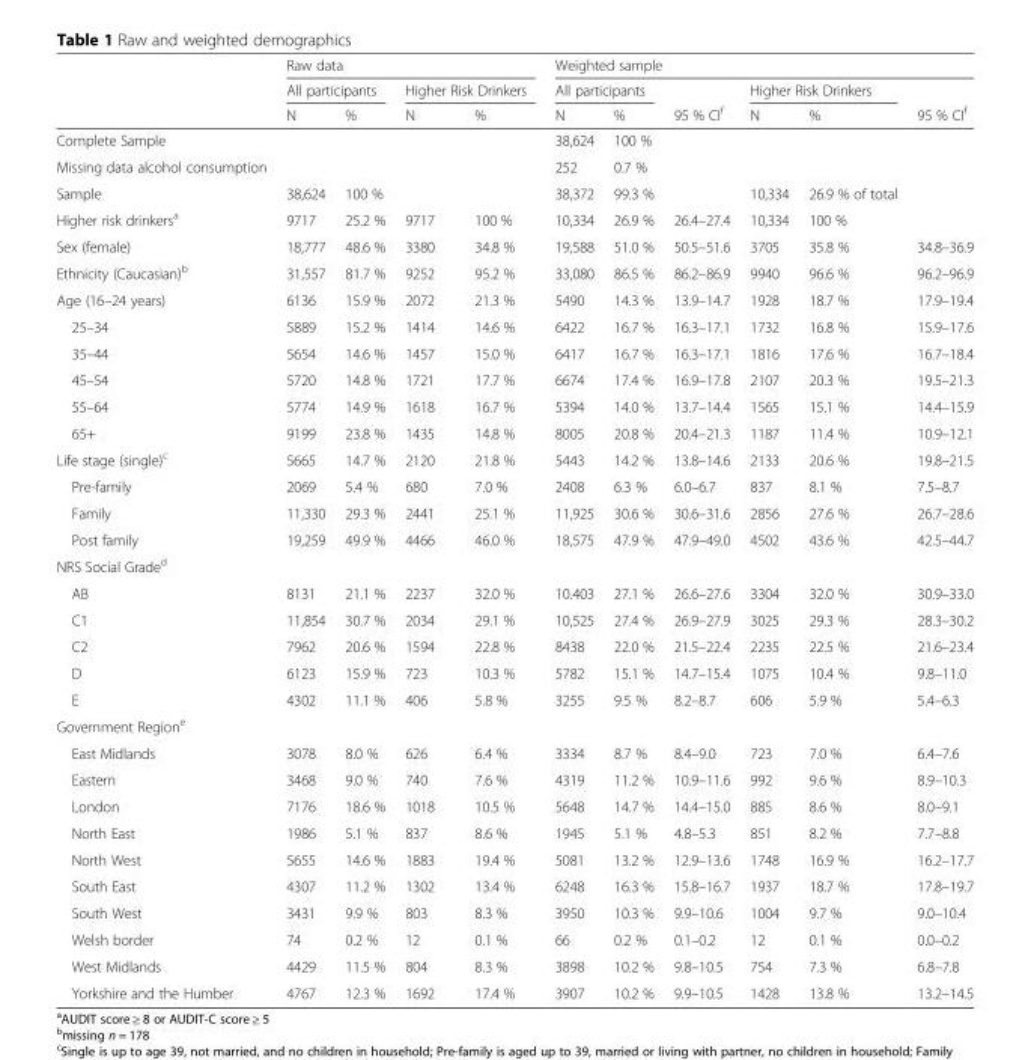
<table><thead><tr><td rowspan="3"></td><td colspan="4">Raw data</td><td colspan="6">Weighted sample</td></tr><tr><td colspan="2">All participants</td><td colspan="2">Higher Risk Drinkers</td><td colspan="2">All participants</td><td rowspan="2">95 % CI<sup>f</sup></td><td colspan="2">Higher Risk Drinkers</td><td rowspan="2">95 % CI<sup>f</sup></td></tr><tr><td>N</td><td>%</td><td>N</td><td>%</td><td>N</td><td>%</td><td>N</td><td>%</td></tr></thead><tbody><tr><td>Complete Sample</td><td></td><td></td><td></td><td></td><td>38,624</td><td>100 %</td><td></td><td></td><td></td><td></td></tr><tr><td>Missing data alcohol consumption</td><td></td><td></td><td></td><td></td><td>252</td><td>0.7 %</td><td></td><td></td><td></td><td></td></tr><tr><td>Sample</td><td>38,624</td><td>100 %</td><td></td><td></td><td>38,372</td><td>99.3 %</td><td></td><td>10,334</td><td>26.9 % of total</td><td></td></tr><tr><td>Higher risk drinkers<sup>a</sup></td><td>9717</td><td>25.2 %</td><td>9717</td><td>100 %</td><td>10,334</td><td>26.9 %</td><td>26.4–27.4</td><td>10,334</td><td>100 %</td><td></td></tr><tr><td>Sex (female)</td><td>18,777</td><td>48.6 %</td><td>3380</td><td>34.8 %</td><td>19,588</td><td>51.0 %</td><td>50.5–51.6</td><td>3705</td><td>35.8 %</td><td>34.8–36.9</td></tr><tr><td>Ethnicity (Caucasian)<sup>b</sup></td><td>31,557</td><td>81.7 %</td><td>9252</td><td>95.2 %</td><td>33,080</td><td>86.5 %</td><td>86.2–86.9</td><td>9940</td><td>96.6 %</td><td>96.2–96.9</td></tr><tr><td>Age (16–24 years)</td><td>6136</td><td>15.9 %</td><td>2072</td><td>21.3 %</td><td>5490</td><td>14.3 %</td><td>13.9–14.7</td><td>1928</td><td>18.7 %</td><td>17.9–19.4</td></tr><tr><td>25–34</td><td>5889</td><td>15.2 %</td><td>1414</td><td>14.6 %</td><td>6422</td><td>16.7 %</td><td>16.3–17.1</td><td>1732</td><td>16.8 %</td><td>15.9–17.6</td></tr><tr><td>35–44</td><td>5654</td><td>14.6 %</td><td>1457</td><td>15.0 %</td><td>6417</td><td>16.7 %</td><td>16.3–17.1</td><td>1816</td><td>17.6 %</td><td>16.7–18.4</td></tr><tr><td>45–54</td><td>5720</td><td>14.8 %</td><td>1721</td><td>17.7 %</td><td>6674</td><td>17.4 %</td><td>16.9–17.8</td><td>2107</td><td>20.3 %</td><td>19.5–21.3</td></tr><tr><td>55–64</td><td>5774</td><td>14.9 %</td><td>1618</td><td>16.7 %</td><td>5394</td><td>14.0 %</td><td>13.7–14.4</td><td>1565</td><td>15.1 %</td><td>14.4–15.9</td></tr><tr><td>65+</td><td>9199</td><td>23.8 %</td><td>1435</td><td>14.8 %</td><td>8005</td><td>20.8 %</td><td>20.4–21.3</td><td>1187</td><td>11.4 %</td><td>10.9–12.1</td></tr><tr><td>Life stage (single)<sup>c</sup></td><td>5665</td><td>14.7 %</td><td>2120</td><td>21.8 %</td><td>5443</td><td>14.2 %</td><td>13.8–14.6</td><td>2133</td><td>20.6 %</td><td>19.8–21.5</td></tr><tr><td>Pre-family</td><td>2069</td><td>5.4 %</td><td>680</td><td>7.0 %</td><td>2408</td><td>6.3 %</td><td>6.0–6.7</td><td>837</td><td>8.1 %</td><td>7.5–8.7</td></tr><tr><td>Family</td><td>11,330</td><td>29.3 %</td><td>2441</td><td>25.1 %</td><td>11,925</td><td>30.6 %</td><td>30.6–31.6</td><td>2856</td><td>27.6 %</td><td>26.7–28.6</td></tr><tr><td>Post family</td><td>19,259</td><td>49.9 %</td><td>4466</td><td>46.0 %</td><td>18,575</td><td>47.9 %</td><td>47.9–49.0</td><td>4502</td><td>43.6 %</td><td>42.5–44.7</td></tr><tr><td colspan="11">NRS Social Grade<sup>d</sup></td></tr><tr><td>AB</td><td>8131</td><td>21.1 %</td><td>2237</td><td>32.0 %</td><td>10.403</td><td>27.1 %</td><td>26.6–27.6</td><td>3304</td><td>32.0 %</td><td>30.9–33.0</td></tr><tr><td>C1</td><td>11,854</td><td>30.7 %</td><td>2034</td><td>29.1 %</td><td>10,525</td><td>27.4 %</td><td>26.9–27.9</td><td>3025</td><td>29.3 %</td><td>28.3–30.2</td></tr><tr><td>C2</td><td>7962</td><td>20.6 %</td><td>1594</td><td>22.8 %</td><td>8438</td><td>22.0 %</td><td>21.5–22.4</td><td>2235</td><td>22.5 %</td><td>21.6–23.4</td></tr><tr><td>D</td><td>6123</td><td>15.9 %</td><td>723</td><td>10.3 %</td><td>5782</td><td>15.1 %</td><td>14.7–15.4</td><td>1075</td><td>10.4 %</td><td>9.8–11.0</td></tr><tr><td>E</td><td>4302</td><td>11.1 %</td><td>406</td><td>5.8 %</td><td>3255</td><td>9.5 %</td><td>8.2–8.7</td><td>606</td><td>5.9 %</td><td>5.4–6.3</td></tr><tr><td colspan="11">Government Region<sup>e</sup></td></tr><tr><td>East Midlands</td><td>3078</td><td>8.0 %</td><td>626</td><td>6.4 %</td><td>3334</td><td>8.7 %</td><td>8.4–9.0</td><td>723</td><td>7.0 %</td><td>6.4–7.6</td></tr><tr><td>Eastern</td><td>3468</td><td>9.0 %</td><td>740</td><td>7.6 %</td><td>4319</td><td>11.2 %</td><td>10.9–11.6</td><td>992</td><td>9.6 %</td><td>8.9–10.3</td></tr><tr><td>London</td><td>7176</td><td>18.6 %</td><td>1018</td><td>10.5 %</td><td>5648</td><td>14.7 %</td><td>14.4–15.0</td><td>885</td><td>8.6 %</td><td>8.0–9.1</td></tr><tr><td>North East</td><td>1986</td><td>5.1 %</td><td>837</td><td>8.6 %</td><td>1945</td><td>5.1 %</td><td>4.8–5.3</td><td>851</td><td>8.2 %</td><td>7.7–8.8</td></tr><tr><td>North West</td><td>5655</td><td>14.6 %</td><td>1883</td><td>19.4 %</td><td>5081</td><td>13.2 %</td><td>12.9–13.6</td><td>1748</td><td>16.9 %</td><td>16.2–17.7</td></tr><tr><td>South East</td><td>4307</td><td>11.2 %</td><td>1302</td><td>13.4 %</td><td>6248</td><td>16.3 %</td><td>15.8–16.7</td><td>1937</td><td>18.7 %</td><td>17.8–19.7</td></tr><tr><td>South West</td><td>3431</td><td>9.9 %</td><td>803</td><td>8.3 %</td><td>3950</td><td>10.3 %</td><td>9.9–10.6</td><td>1004</td><td>9.7 %</td><td>9.0–10.4</td></tr><tr><td>Welsh border</td><td>74</td><td>0.2 %</td><td>12</td><td>0.1 %</td><td>66</td><td>0.2 %</td><td>0.1–0.2</td><td>12</td><td>0.1 %</td><td>0.0–0.2</td></tr><tr><td>West Midlands</td><td>4429</td><td>11.5 %</td><td>804</td><td>8.3 %</td><td>3898</td><td>10.2 %</td><td>9.8–10.5</td><td>754</td><td>7.3 %</td><td>6.8–7.8</td></tr><tr><td>Yorkshire and the Humber</td><td>4767</td><td>12.3 %</td><td>1692</td><td>17.4 %</td><td>3907</td><td>10.2 %</td><td>9.9–10.5</td><td>1428</td><td>13.8 %</td><td>13.2–14.5</td></tr></tbody></table>